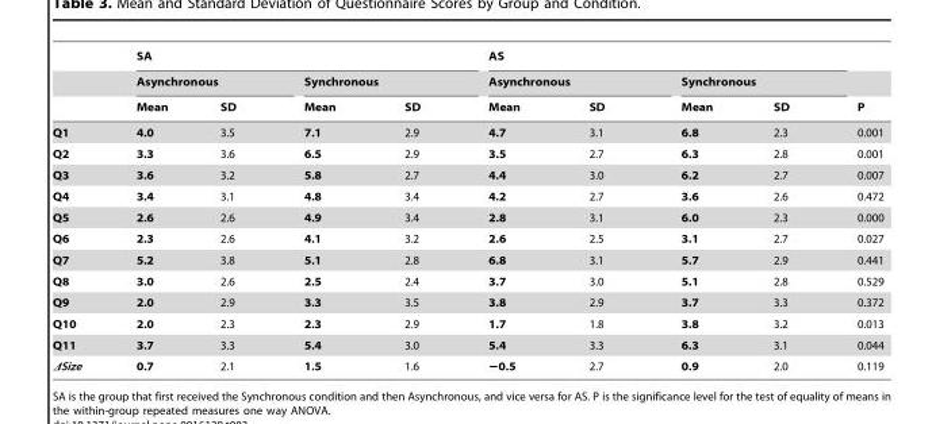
<table><thead><tr><td rowspan="3"></td><td colspan="4">SA</td><td colspan="4">AS</td><td rowspan="3">P</td></tr><tr><td colspan="2">Asynchronous</td><td colspan="2">Synchronous</td><td colspan="2">Asynchronous</td><td colspan="2">Synchronous</td></tr><tr><td>Mean</td><td>SD</td><td>Mean</td><td>SD</td><td>Mean</td><td>SD</td><td>Mean</td><td>SD</td></tr></thead><tbody><tr><td>Q1</td><td>4.0</td><td>3.5</td><td>7.1</td><td>2.9</td><td>4.7</td><td>3.1</td><td>6.8</td><td>2.3</td><td>0.001</td></tr><tr><td>Q2</td><td>3.3</td><td>3.6</td><td>6.5</td><td>2.9</td><td>3.5</td><td>2.7</td><td>6.3</td><td>2.8</td><td>0.001</td></tr><tr><td>Q3</td><td>3.6</td><td>3.2</td><td>5.8</td><td>2.7</td><td>4.4</td><td>3.0</td><td>6.2</td><td>2.7</td><td>0.007</td></tr><tr><td>Q4</td><td>3.4</td><td>3.1</td><td>4.8</td><td>3.4</td><td>4.2</td><td>2.7</td><td>3.6</td><td>2.6</td><td>0.472</td></tr><tr><td>Q5</td><td>2.6</td><td>2.6</td><td>4.9</td><td>3.4</td><td>2.8</td><td>3.1</td><td>6.0</td><td>2.3</td><td>0.000</td></tr><tr><td>Q6</td><td>2.3</td><td>2.6</td><td>4.1</td><td>3.2</td><td>2.6</td><td>2.5</td><td>3.1</td><td>2.7</td><td>0.027</td></tr><tr><td>Q7</td><td>5.2</td><td>3.8</td><td>5.1</td><td>2.8</td><td>6.8</td><td>3.1</td><td>5.7</td><td>2.9</td><td>0.441</td></tr><tr><td>Q8</td><td>3.0</td><td>2.6</td><td>2.5</td><td>2.4</td><td>3.7</td><td>3.0</td><td>5.1</td><td>2.8</td><td>0.529</td></tr><tr><td>Q9</td><td>2.0</td><td>2.9</td><td>3.3</td><td>3.5</td><td>3.8</td><td>2.9</td><td>3.7</td><td>3.3</td><td>0.372</td></tr><tr><td>Q10</td><td>2.0</td><td>2.3</td><td>2.3</td><td>2.9</td><td>1.7</td><td>1.8</td><td>3.8</td><td>3.2</td><td>0.013</td></tr><tr><td>Q11</td><td>3.7</td><td>3.3</td><td>5.4</td><td>3.0</td><td>5.4</td><td>3.3</td><td>6.3</td><td>3.1</td><td>0.044</td></tr><tr><td>ΔSize</td><td>0.7</td><td>2.1</td><td>1.5</td><td>1.6</td><td>−0.5</td><td>2.7</td><td>0.9</td><td>2.0</td><td>0.119</td></tr></tbody></table>